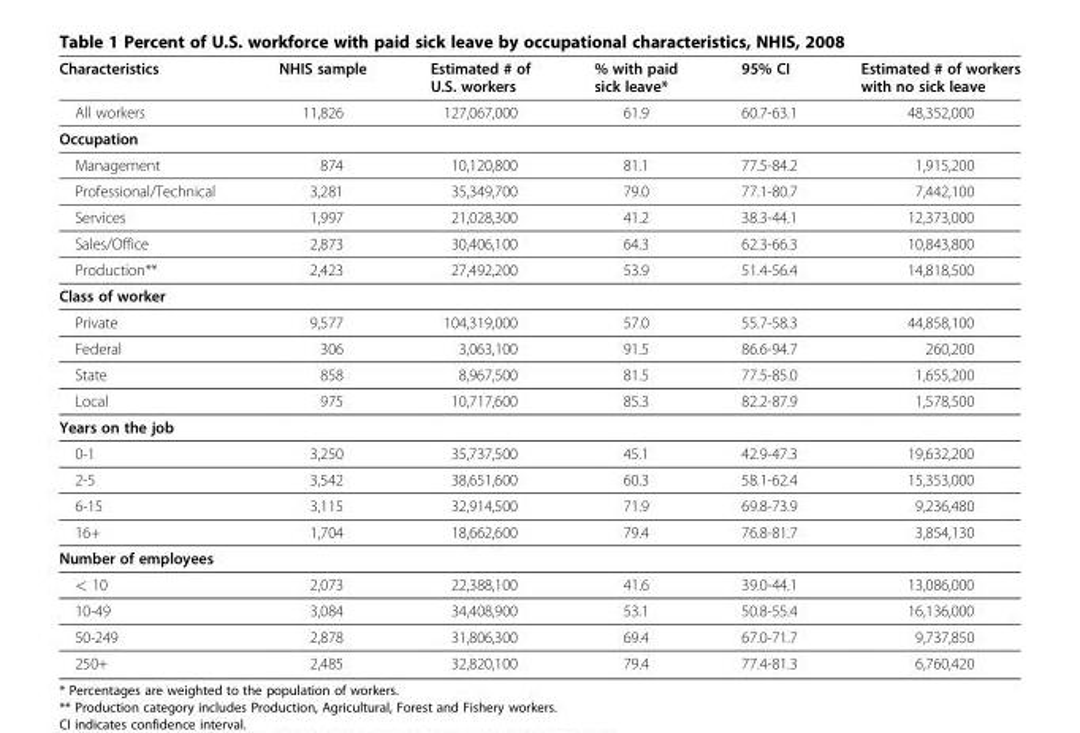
<table><thead><tr><td>Characteristics</td><td>NHIS sample</td><td>Estimated # of U.S. workers</td><td>% with paid sick leave*</td><td>95% CI</td><td>Estimated # of workers with no sick leave</td></tr></thead><tbody><tr><td>All workers</td><td>11,826</td><td>127,067,000</td><td>61.9</td><td>60.7-63.1</td><td>48,352,000</td></tr><tr><td colspan="6">Occupation</td></tr><tr><td>Management</td><td>874</td><td>10,120,800</td><td>81.1</td><td>77.5-84.2</td><td>1,915,200</td></tr><tr><td>Professional/Technical</td><td>3,281</td><td>35,349,700</td><td>79.0</td><td>77.1-80.7</td><td>7,442,100</td></tr><tr><td>Services</td><td>1,997</td><td>21,028,300</td><td>41.2</td><td>38.3-44.1</td><td>12,373,000</td></tr><tr><td>Sales/Office</td><td>2,873</td><td>30,406,100</td><td>64.3</td><td>62.3-66.3</td><td>10,843,800</td></tr><tr><td>Production**</td><td>2,423</td><td>27,492,200</td><td>53.9</td><td>51.4-56.4</td><td>14,818,500</td></tr><tr><td colspan="6">Class of worker</td></tr><tr><td>Private</td><td>9,577</td><td>104,319,000</td><td>57.0</td><td>55.7-58.3</td><td>44,858,100</td></tr><tr><td>Federal</td><td>306</td><td>3,063,100</td><td>91.5</td><td>86.6-94.7</td><td>260,200</td></tr><tr><td>State</td><td>858</td><td>8,967,500</td><td>81.5</td><td>77.5-85.0</td><td>1,655,200</td></tr><tr><td>Local</td><td>975</td><td>10,717,600</td><td>85.3</td><td>82.2-87.9</td><td>1,578,500</td></tr><tr><td colspan="6">Years on the job</td></tr><tr><td>0-1</td><td>3,250</td><td>35,737,500</td><td>45.1</td><td>42.9-47.3</td><td>19,632,200</td></tr><tr><td>2-5</td><td>3,542</td><td>38,651,600</td><td>60.3</td><td>58.1-62.4</td><td>15,353,000</td></tr><tr><td>6-15</td><td>3,115</td><td>32,914,500</td><td>71.9</td><td>69.8-73.9</td><td>9,236,480</td></tr><tr><td>16+</td><td>1,704</td><td>18,662,600</td><td>79.4</td><td>76.8-81.7</td><td>3,854,130</td></tr><tr><td colspan="6">Number of employees</td></tr><tr><td>&lt; 10</td><td>2,073</td><td>22,388,100</td><td>41.6</td><td>39.0-44.1</td><td>13,086,000</td></tr><tr><td>10-49</td><td>3,084</td><td>34,408,900</td><td>53.1</td><td>50.8-55.4</td><td>16,136,000</td></tr><tr><td>50-249</td><td>2,878</td><td>31,806,300</td><td>69.4</td><td>67.0-71.7</td><td>9,737,850</td></tr><tr><td>250+</td><td>2,485</td><td>32,820,100</td><td>79.4</td><td>77.4-81.3</td><td>6,760,420</td></tr></tbody></table>